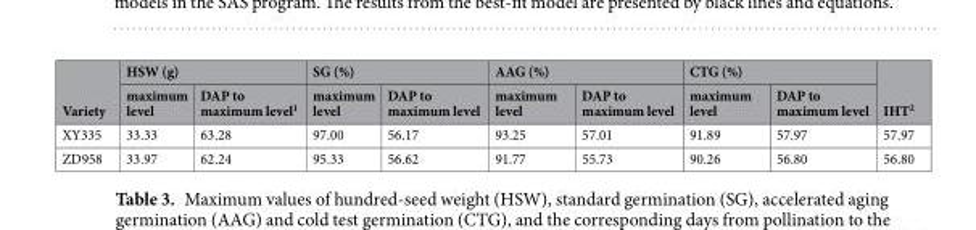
<table><thead><tr><td rowspan="2">Variety</td><td colspan="2">HSW (g)</td><td colspan="2">SG (%)</td><td colspan="2">AAG (%)</td><td colspan="2">CTG (%)</td><td rowspan="2">IHT<sup>2</sup></td></tr><tr><td>maximum level</td><td>DAP to maximum level<sup>1</sup></td><td>maximum level</td><td>DAP to maximum level</td><td>maximum level</td><td>DAP to maximum level</td><td>maximum level</td><td>DAP to maximum level</td></tr></thead><tbody><tr><td>XY335</td><td>33.33</td><td>63.28</td><td>97.00</td><td>56.17</td><td>93.25</td><td>57.01</td><td>91.89</td><td>57.97</td><td>57.97</td></tr><tr><td>ZD958</td><td>33.97</td><td>62.24</td><td>95.33</td><td>56.62</td><td>91.77</td><td>55.73</td><td>90.26</td><td>56.80</td><td>56.80</td></tr></tbody></table>